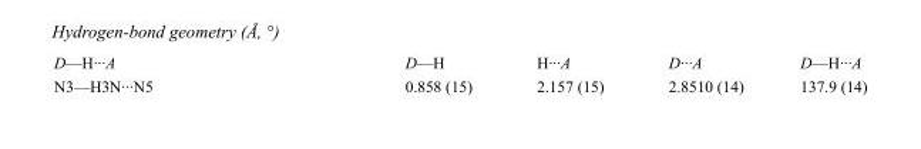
<table><tbody><tr><td>D—H···A</td><td>D—H</td><td>H···A</td><td>D···A</td><td>D—H···A</td></tr><tr><td>N3—H3N···N5</td><td>0.858 (15)</td><td>2.157 (15)</td><td>2.8510 (14)</td><td>137.9 (14)</td></tr></tbody></table>